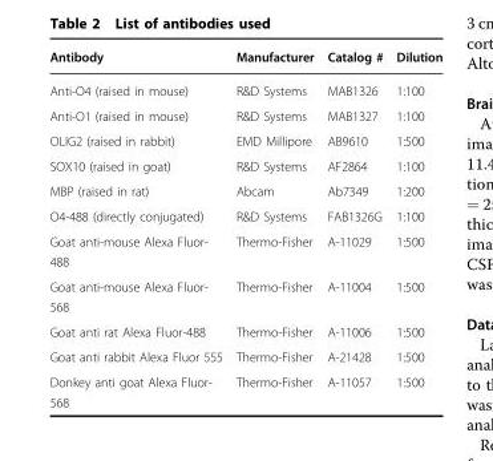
<table><thead><tr><td>Antibody</td><td>Manufacturer</td><td>Catalog #</td><td>Dilution</td></tr></thead><tbody><tr><td>Anti-O4 (raised in mouse)</td><td>R&amp;D Systems</td><td>MAB1326</td><td>1:100</td></tr><tr><td>Anti-O1 (raised in mouse)</td><td>R&amp;D Systems</td><td>MAB1327</td><td>1:100</td></tr><tr><td>OLIG2 (raised in rabbit)</td><td>EMD Millipore</td><td>AB9610</td><td>1:500</td></tr><tr><td>SOX10 (raised in goat)</td><td>R&amp;D Systems</td><td>AF2864</td><td>1:100</td></tr><tr><td>MBP (raised in rat)</td><td>Abcam</td><td>Ab7349</td><td>1:200</td></tr><tr><td>O4-488 (directly conjugated)</td><td>R&amp;D Systems</td><td>FAB1326G</td><td>1:100</td></tr><tr><td>Goat anti-mouse Alexa Fluor- 488</td><td>Thermo-Fisher</td><td>A-11029</td><td>1:500</td></tr><tr><td>Goat anti-mouse Alexa Fluor- 568</td><td>Thermo-Fisher</td><td>A-11004</td><td>1:500</td></tr><tr><td>Goat anti rat Alexa Fluor-488</td><td>Thermo-Fisher</td><td>A-11006</td><td>1:500</td></tr><tr><td>Goat anti rabbit Alexa Fluor 555</td><td>Thermo-Fisher</td><td>A-21428</td><td>1:500</td></tr><tr><td>Donkey anti goat Alexa Fluor- 568</td><td>Thermo-Fisher</td><td>A-11057</td><td>1:500</td></tr></tbody></table>